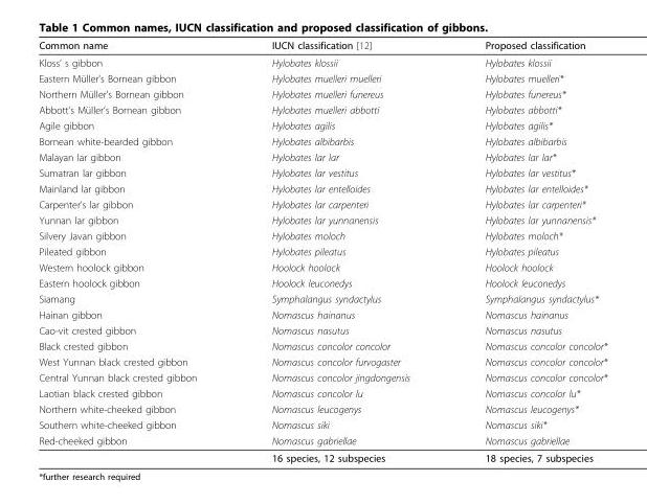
<table><thead><tr><td>Common name</td><td>IUCN classification [12]</td><td>Proposed classification</td></tr></thead><tbody><tr><td>Kloss’ s gibbon</td><td>Hylobates klossii</td><td>Hylobates klossii</td></tr><tr><td>Eastern Müller’s Bornean gibbon</td><td>Hylobates muelleri muelleri</td><td>Hylobates muelleri*</td></tr><tr><td>Northern Müller’s Bornean gibbon</td><td>Hylobates muelleri funereus</td><td>Hylobates funereus*</td></tr><tr><td>Abbott’s Müller’s Bornean gibbon</td><td>Hylobates muelleri abbotti</td><td>Hylobates abbotti*</td></tr><tr><td>Agile gibbon</td><td>Hylobates agilis</td><td>Hylobates agilis*</td></tr><tr><td>Bornean white-bearded gibbon</td><td>Hylobates albibarbis</td><td>Hylobates albibarbis</td></tr><tr><td>Malayan lar gibbon</td><td>Hylobates lar lar</td><td>Hylobates lar lar*</td></tr><tr><td>Sumatran lar gibbon</td><td>Hylobates lar vestitus</td><td>Hylobates lar vestitus*</td></tr><tr><td>Mainland lar gibbon</td><td>Hylobates lar entelloides</td><td>Hylobates lar entelloides*</td></tr><tr><td>Carpenter’s lar gibbon</td><td>Hylobates lar carpenteri</td><td>Hylobates lar carpenteri*</td></tr><tr><td>Yunnan lar gibbon</td><td>Hylobates lar yunnanensis</td><td>Hylobates lar yunnanensis*</td></tr><tr><td>Silvery Javan gibbon</td><td>Hylobates moloch</td><td>Hylobates moloch*</td></tr><tr><td>Pileated gibbon</td><td>Hylobates pileatus</td><td>Hylobates pileatus</td></tr><tr><td>Western hoolock gibbon</td><td>Hoolock hoolock</td><td>Hoolock hoolock</td></tr><tr><td>Eastern hoolock gibbon</td><td>Hoolock leuconedys</td><td>Hoolock leuconedys</td></tr><tr><td>Siamang</td><td>Symphalangus syndactylus</td><td>Symphalangus syndactylus*</td></tr><tr><td>Hainan gibbon</td><td>Nomascus hainanus</td><td>Nomascus hainanus</td></tr><tr><td>Cao-vit crested gibbon</td><td>Nomascus nasutus</td><td>Nomascus nasutus</td></tr><tr><td>Black crested gibbon</td><td>Nomascus concolor concolor</td><td>Nomascus concolor concolor*</td></tr><tr><td>West Yunnan black crested gibbon</td><td>Nomascus concolor furvogaster</td><td>Nomascus concolor concolor*</td></tr><tr><td>Central Yunnan black crested gibbon</td><td>Nomascus concolor jingdongensis</td><td>Nomascus concolor concolor*</td></tr><tr><td>Laotian black crested gibbon</td><td>Nomascus concolor lu</td><td>Nomascus concolor lu*</td></tr><tr><td>Northern white-cheeked gibbon</td><td>Nomascus leucogenys</td><td>Nomascus leucogenys*</td></tr><tr><td>Southern white-cheeked gibbon</td><td>Nomascus siki</td><td>Nomascus siki*</td></tr><tr><td rowspan="2">Red-cheeked gibbon</td><td>Nomascus gabriellae</td><td>Nomascus gabriellae</td></tr><tr><td>16 species, 12 subspecies</td><td>18 species, 7 subspecies</td></tr></tbody></table>